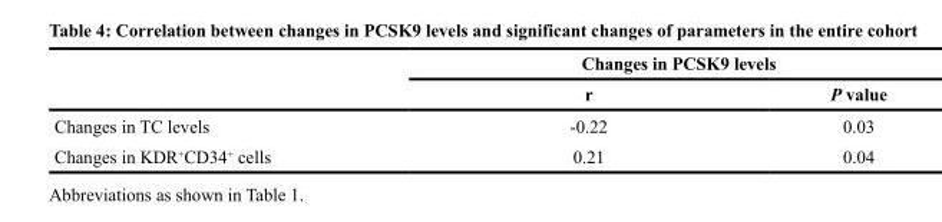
<table><thead><tr><td rowspan="2"></td><td colspan="2">Changes in PCSK9 levels</td></tr><tr><td>r</td><td>P value</td></tr></thead><tbody><tr><td>Changes in TC levels</td><td>-0.22</td><td>0.03</td></tr><tr><td>Changes in KDR<sup>+</sup>CD34<sup>+</sup> cells</td><td>0.21</td><td>0.04</td></tr></tbody></table>